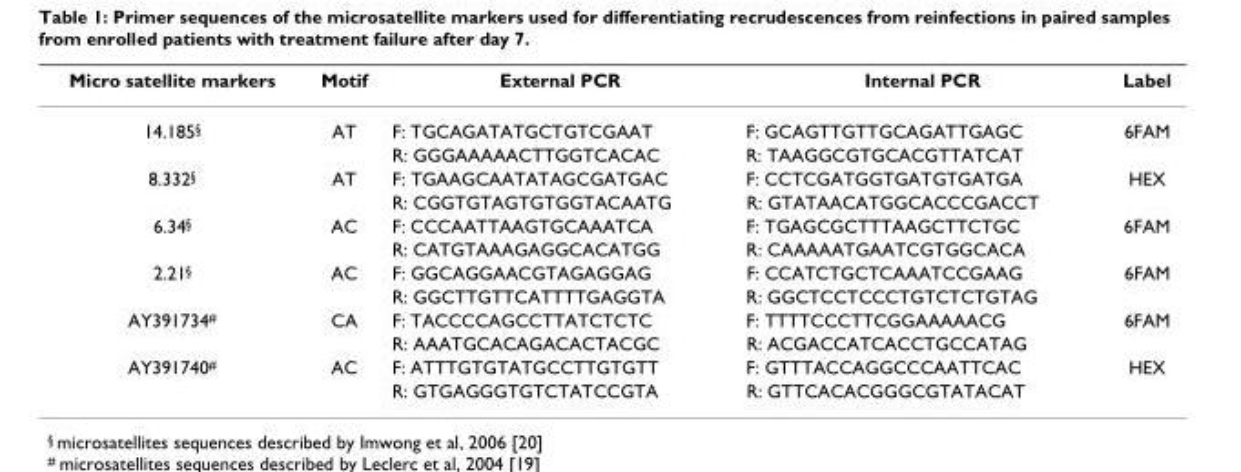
<table><thead><tr><td>Micro satellite markers</td><td>Motif</td><td>External PCR</td><td>Internal PCR</td><td>Label</td></tr></thead><tbody><tr><td rowspan="2">14.185<sup>§</sup></td><td>AT</td><td>F: TGCAGATATGCTGTCGAAT</td><td>F: GCAGTTGTTGCAGATTGAGC</td><td>6FAM</td></tr><tr><td></td><td>R: GGGAAAAACTTGGTCACAC</td><td>R: TAAGGCGTGCACGTTATCAT</td><td></td></tr><tr><td rowspan="2">8.332<sup>§</sup></td><td>AT</td><td>F: TGAAGCAATATAGCGATGAC</td><td>F: CCTCGATGGTGATGTGATGA</td><td>HEX</td></tr><tr><td></td><td>R: CGGTGTAGTGTGGTACAATG</td><td>R: GTATAACATGGCACCCGACCT</td><td></td></tr><tr><td rowspan="2">6.34<sup>§</sup></td><td>AC</td><td>F: CCCAATTAAGTGCAAATCA</td><td>F: TGAGCGCTTTAAGCTTCTGC</td><td>6FAM</td></tr><tr><td></td><td>R: CATGTAAAGAGGCACATGG</td><td>R: CAAAAATGAATCGTGGCACA</td><td></td></tr><tr><td rowspan="2">2.21<sup>§</sup></td><td>AC</td><td>F: GGCAGGAACGTAGAGGAG</td><td>F: CCATCTGCTCAAATCCGAAG</td><td>6FAM</td></tr><tr><td></td><td>R: GGCTTGTTCATTTTGAGGTA</td><td>R: GGCTCCTCCCTGTCTCTGTAG</td><td></td></tr><tr><td rowspan="2">AY391734<sup>#</sup></td><td>CA</td><td>F: TACCCCAGCCTTATCTCTC</td><td>F: TTTTCCCTTCGGAAAAACG</td><td>6FAM</td></tr><tr><td></td><td>R: AAATGCACAGACACTACGC</td><td>R: ACGACCATCACCTGCCATAG</td><td></td></tr><tr><td rowspan="2">AY391740<sup>#</sup></td><td>AC</td><td>F: ATTTGTGTATGCCTTGTGTT</td><td>F: GTTTACCAGGCCCAATTCAC</td><td>HEX</td></tr><tr><td></td><td>R: GTGAGGGTGTCTATCCGTA</td><td>R: GTTCACACGGGCGTATACAT</td><td></td></tr></tbody></table>